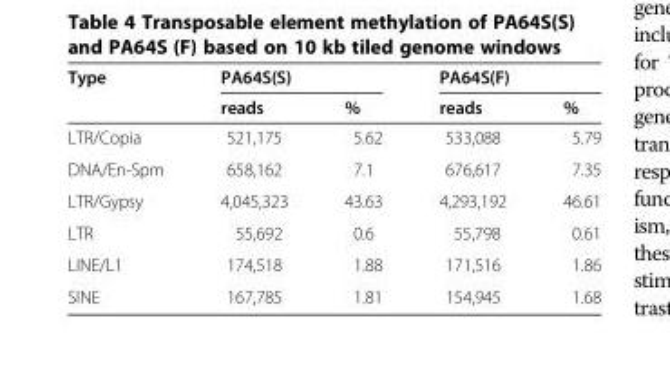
<table><thead><tr><td rowspan="2">Type</td><td colspan="2">PA64S(S)</td><td colspan="2">PA64S(F)</td></tr><tr><td>reads</td><td>%</td><td>reads</td><td>%</td></tr></thead><tbody><tr><td>LTR/Copia</td><td>521,175</td><td>5.62</td><td>533,088</td><td>5.79</td></tr><tr><td>DNA/En-Spm</td><td>658,162</td><td>7.1</td><td>676,617</td><td>7.35</td></tr><tr><td>LTR/Gypsy</td><td>4,045,323</td><td>43.63</td><td>4,293,192</td><td>46.61</td></tr><tr><td>LTR</td><td>55,692</td><td>0.6</td><td>55,798</td><td>0.61</td></tr><tr><td>LINE/L1</td><td>174,518</td><td>1.88</td><td>171,516</td><td>1.86</td></tr><tr><td>SINE</td><td>167,785</td><td>1.81</td><td>154,945</td><td>1.68</td></tr></tbody></table>